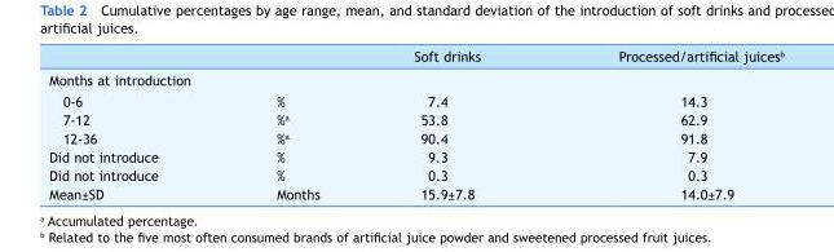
<table><thead><tr><td></td><td></td><td>Soft drinks</td><td>Processed/artificial juices<sup>b</sup></td></tr></thead><tbody><tr><td colspan="4">Months at introduction</td></tr><tr><td>0-6</td><td>%</td><td>7.4</td><td>14.3</td></tr><tr><td>7-12</td><td>%<sup>a</sup></td><td>53.8</td><td>62.9</td></tr><tr><td>12-36</td><td>%<sup>a</sup></td><td>90.4</td><td>91.8</td></tr><tr><td>Did not introduce</td><td>%</td><td>9.3</td><td>7.9</td></tr><tr><td>Did not introduce</td><td>%</td><td>0.3</td><td>0.3</td></tr><tr><td>Mean±SD</td><td>Months</td><td>15.9±7.8</td><td>14.0±7.9</td></tr></tbody></table>